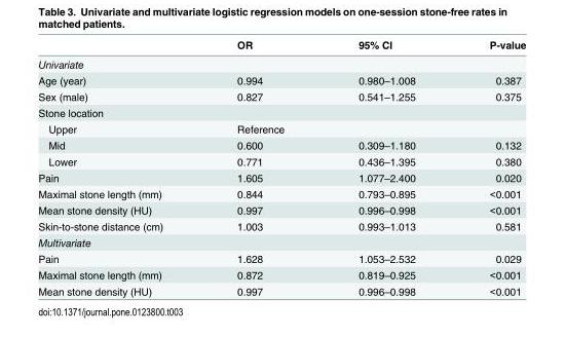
<table><thead><tr><td></td><td>OR</td><td>95% CI</td><td>P-value</td></tr></thead><tbody><tr><td colspan="4">Univariate</td></tr><tr><td>Age (year)</td><td>0.994</td><td>0.980–1.008</td><td>0.387</td></tr><tr><td>Sex (male)</td><td>0.827</td><td>0.541–1.255</td><td>0.375</td></tr><tr><td colspan="4">Stone location</td></tr><tr><td>Upper</td><td>Reference</td><td></td><td></td></tr><tr><td>Mid</td><td>0.600</td><td>0.309–1.180</td><td>0.132</td></tr><tr><td>Lower</td><td>0.771</td><td>0.436–1.395</td><td>0.380</td></tr><tr><td>Pain</td><td>1.605</td><td>1.077–2.400</td><td>0.020</td></tr><tr><td>Maximal stone length (mm)</td><td>0.844</td><td>0.793–0.895</td><td>&lt;0.001</td></tr><tr><td>Mean stone density (HU)</td><td>0.997</td><td>0.996–0.998</td><td>&lt;0.001</td></tr><tr><td>Skin-to-stone distance (cm)</td><td>1.003</td><td>0.993–1.013</td><td>0.581</td></tr><tr><td colspan="4">Multivariate</td></tr><tr><td>Pain</td><td>1.628</td><td>1.053–2.532</td><td>0.029</td></tr><tr><td>Maximal stone length (mm)</td><td>0.872</td><td>0.819–0.925</td><td>&lt;0.001</td></tr><tr><td>Mean stone density (HU)</td><td>0.997</td><td>0.996–0.998</td><td>&lt;0.001</td></tr></tbody></table>